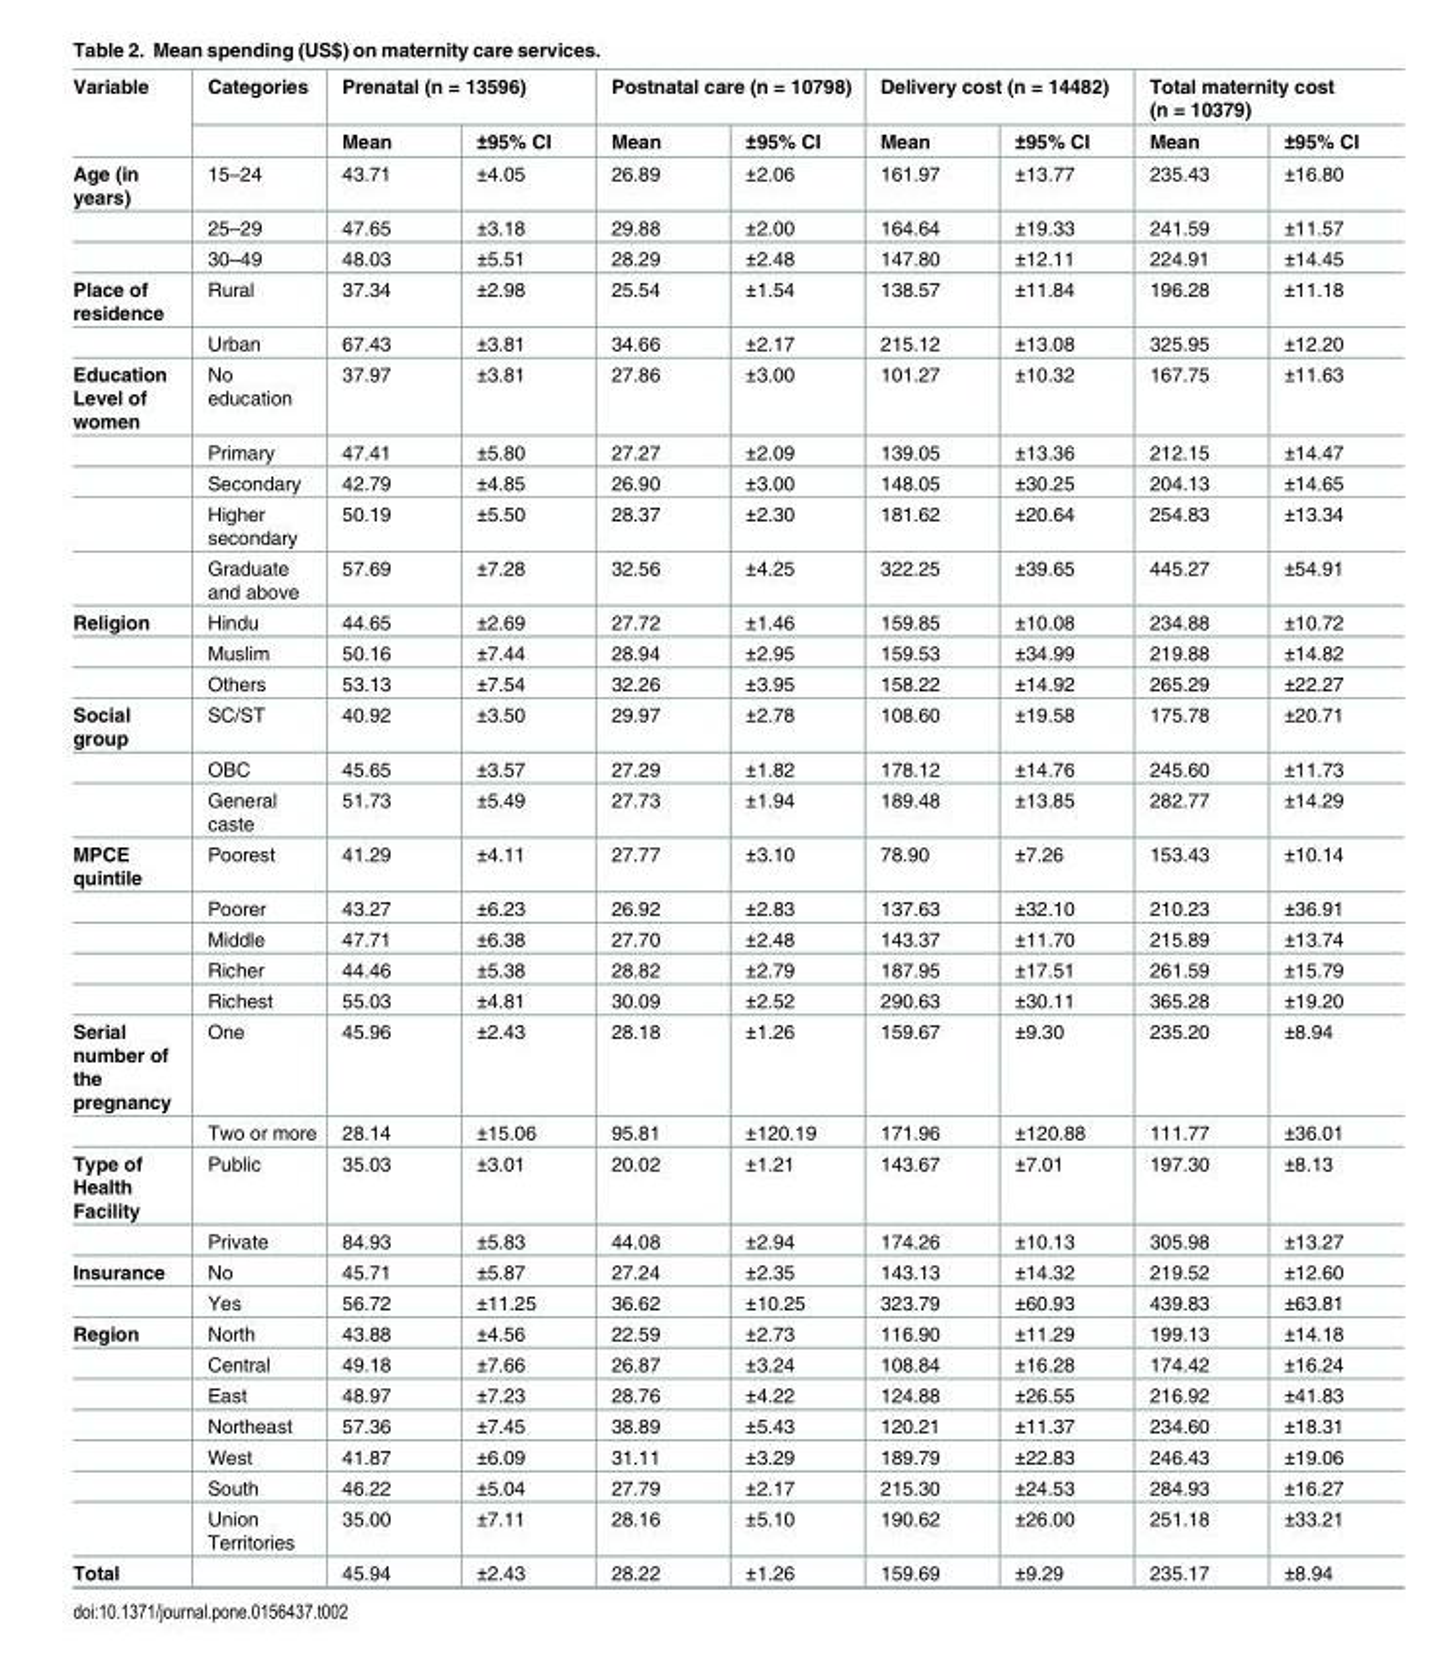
<table><thead><tr><td rowspan="2">Variable</td><td rowspan="2">Categories</td><td colspan="2">Prenatal (n = 13596)</td><td colspan="2">Postnatal care (n = 10798)</td><td colspan="2">Delivery cost (n = 14482)</td><td colspan="2">Total maternity cost (n = 10379)</td></tr><tr><td>Mean</td><td>±95% CI</td><td>Mean</td><td>±95% CI</td><td>Mean</td><td>±95% CI</td><td>Mean</td><td>±95% CI</td></tr></thead><tbody><tr><td rowspan="3">Age (in years)</td><td>15–24</td><td>43.71</td><td>±4.05</td><td>26.89</td><td>±2.06</td><td>161.97</td><td>±13.77</td><td>235.43</td><td>±16.80</td></tr><tr><td>25–29</td><td>47.65</td><td>±3.18</td><td>29.88</td><td>±2.00</td><td>164.64</td><td>±19.33</td><td>241.59</td><td>±11.57</td></tr><tr><td>30–49</td><td>48.03</td><td>±5.51</td><td>28.29</td><td>±2.48</td><td>147.80</td><td>±12.11</td><td>224.91</td><td>±14.45</td></tr><tr><td rowspan="2">Place of residence</td><td>Rural</td><td>37.34</td><td>±2.98</td><td>25.54</td><td>±1.54</td><td>138.57</td><td>±11.84</td><td>196.28</td><td>±11.18</td></tr><tr><td>Urban</td><td>67.43</td><td>±3.81</td><td>34.66</td><td>±2.17</td><td>215.12</td><td>±13.08</td><td>325.95</td><td>±12.20</td></tr><tr><td rowspan="5">Education Level of women</td><td>No education</td><td>37.97</td><td>±3.81</td><td>27.86</td><td>±3.00</td><td>101.27</td><td>±10.32</td><td>167.75</td><td>±11.63</td></tr><tr><td>Primary</td><td>47.41</td><td>±5.80</td><td>27.27</td><td>±2.09</td><td>139.05</td><td>±13.36</td><td>212.15</td><td>±14.47</td></tr><tr><td>Secondary</td><td>42.79</td><td>±4.85</td><td>26.90</td><td>±3.00</td><td>148.05</td><td>±30.25</td><td>204.13</td><td>±14.65</td></tr><tr><td>Higher secondary</td><td>50.19</td><td>±5.50</td><td>28.37</td><td>±2.30</td><td>181.62</td><td>±20.64</td><td>254.83</td><td>±13.34</td></tr><tr><td>Graduate and above</td><td>57.69</td><td>±7.28</td><td>32.56</td><td>±4.25</td><td>322.25</td><td>±39.65</td><td>445.27</td><td>±54.91</td></tr><tr><td rowspan="3">Religion</td><td>Hindu</td><td>44.65</td><td>±2.69</td><td>27.72</td><td>±1.46</td><td>159.85</td><td>±10.08</td><td>234.88</td><td>±10.72</td></tr><tr><td>Muslim</td><td>50.16</td><td>±7.44</td><td>28.94</td><td>±2.95</td><td>159.53</td><td>±34.99</td><td>219.88</td><td>±14.82</td></tr><tr><td>Others</td><td>53.13</td><td>±7.54</td><td>32.26</td><td>±3.95</td><td>158.22</td><td>±14.92</td><td>265.29</td><td>±22.27</td></tr><tr><td rowspan="3">Social group</td><td>SC/ST</td><td>40.92</td><td>±3.50</td><td>29.97</td><td>±2.78</td><td>108.60</td><td>±19.58</td><td>175.78</td><td>±20.71</td></tr><tr><td>OBC</td><td>45.65</td><td>±3.57</td><td>27.29</td><td>±1.82</td><td>178.12</td><td>±14.76</td><td>245.60</td><td>±11.73</td></tr><tr><td>General caste</td><td>51.73</td><td>±5.49</td><td>27.73</td><td>±1.94</td><td>189.48</td><td>±13.85</td><td>282.77</td><td>±14.29</td></tr><tr><td rowspan="5">MPCE quintile</td><td>Poorest</td><td>41.29</td><td>±4.11</td><td>27.77</td><td>±3.10</td><td>78.90</td><td>±7.26</td><td>153.43</td><td>±10.14</td></tr><tr><td>Poorer</td><td>43.27</td><td>±6.23</td><td>26.92</td><td>±2.83</td><td>137.63</td><td>±32.10</td><td>210.23</td><td>±36.91</td></tr><tr><td>Middle</td><td>47.71</td><td>±6.38</td><td>27.70</td><td>±2.48</td><td>143.37</td><td>±11.70</td><td>215.89</td><td>±13.74</td></tr><tr><td>Richer</td><td>44.46</td><td>±5.38</td><td>28.82</td><td>±2.79</td><td>187.95</td><td>±17.51</td><td>261.59</td><td>±15.79</td></tr><tr><td>Richest</td><td>55.03</td><td>±4.81</td><td>30.09</td><td>±2.52</td><td>290.63</td><td>±30.11</td><td>365.28</td><td>±19.20</td></tr><tr><td rowspan="2">Serial number of the pregnancy</td><td>One</td><td>45.96</td><td>±2.43</td><td>28.18</td><td>±1.26</td><td>159.67</td><td>±9.30</td><td>235.20</td><td>±8.94</td></tr><tr><td>Two or more</td><td>28.14</td><td>±15.06</td><td>95.81</td><td>±120.19</td><td>171.96</td><td>±120.88</td><td>111.77</td><td>±36.01</td></tr><tr><td rowspan="2">Type of Health Facility</td><td>Public</td><td>35.03</td><td>±3.01</td><td>20.02</td><td>±1.21</td><td>143.67</td><td>±7.01</td><td>197.30</td><td>±8.13</td></tr><tr><td>Private</td><td>84.93</td><td>±5.83</td><td>44.08</td><td>±2.94</td><td>174.26</td><td>±10.13</td><td>305.98</td><td>±13.27</td></tr><tr><td rowspan="2">Insurance</td><td>No</td><td>45.71</td><td>±5.87</td><td>27.24</td><td>±2.35</td><td>143.13</td><td>±14.32</td><td>219.52</td><td>±12.60</td></tr><tr><td>Yes</td><td>56.72</td><td>±11.25</td><td>36.62</td><td>±10.25</td><td>323.79</td><td>±60.93</td><td>439.83</td><td>±63.81</td></tr><tr><td rowspan="7">Region</td><td>North</td><td>43.88</td><td>±4.56</td><td>22.59</td><td>±2.73</td><td>116.90</td><td>±11.29</td><td>199.13</td><td>±14.18</td></tr><tr><td>Central</td><td>49.18</td><td>±7.66</td><td>26.87</td><td>±3.24</td><td>108.84</td><td>±16.28</td><td>174.42</td><td>±16.24</td></tr><tr><td>East</td><td>48.97</td><td>±7.23</td><td>28.76</td><td>±4.22</td><td>124.88</td><td>±26.55</td><td>216.92</td><td>±41.83</td></tr><tr><td>Northeast</td><td>57.36</td><td>±7.45</td><td>38.89</td><td>±5.43</td><td>120.21</td><td>±11.37</td><td>234.60</td><td>±18.31</td></tr><tr><td>West</td><td>41.87</td><td>±6.09</td><td>31.11</td><td>±3.29</td><td>189.79</td><td>±22.83</td><td>246.43</td><td>±19.06</td></tr><tr><td>South</td><td>46.22</td><td>±5.04</td><td>27.79</td><td>±2.17</td><td>215.30</td><td>±24.53</td><td>284.93</td><td>±16.27</td></tr><tr><td>Union Territories</td><td>35.00</td><td>±7.11</td><td>28.16</td><td>±5.10</td><td>190.62</td><td>±26.00</td><td>251.18</td><td>±33.21</td></tr><tr><td>Total</td><td></td><td>45.94</td><td>±2.43</td><td>28.22</td><td>±1.26</td><td>159.69</td><td>±9.29</td><td>235.17</td><td>±8.94</td></tr></tbody></table>